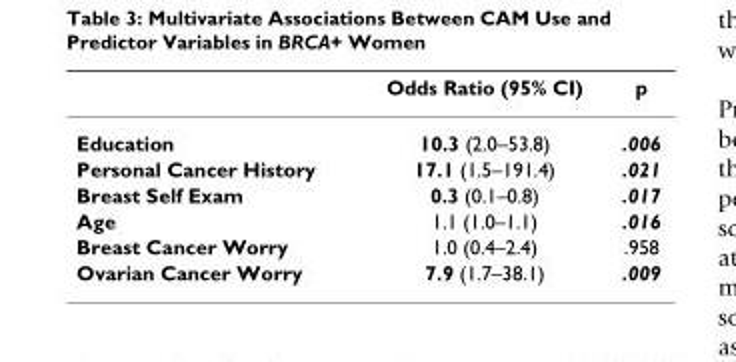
<table><thead><tr><td></td><td>Odds Ratio (95% CI)</td><td>p</td></tr></thead><tbody><tr><td>Education</td><td>10.3 (2.0–53.8)</td><td>.006</td></tr><tr><td>Personal Cancer History</td><td>17.1 (1.5–191.4)</td><td>.021</td></tr><tr><td>Breast Self Exam</td><td>0.3 (0.1–0.8)</td><td>.017</td></tr><tr><td>Age</td><td>1.1 (1.0–1.1)</td><td>.016</td></tr><tr><td>Breast Cancer Worry</td><td>1.0 (0.4–2.4)</td><td>.958</td></tr><tr><td>Ovarian Cancer Worry</td><td>7.9 (1.7–38.1)</td><td>.009</td></tr></tbody></table>